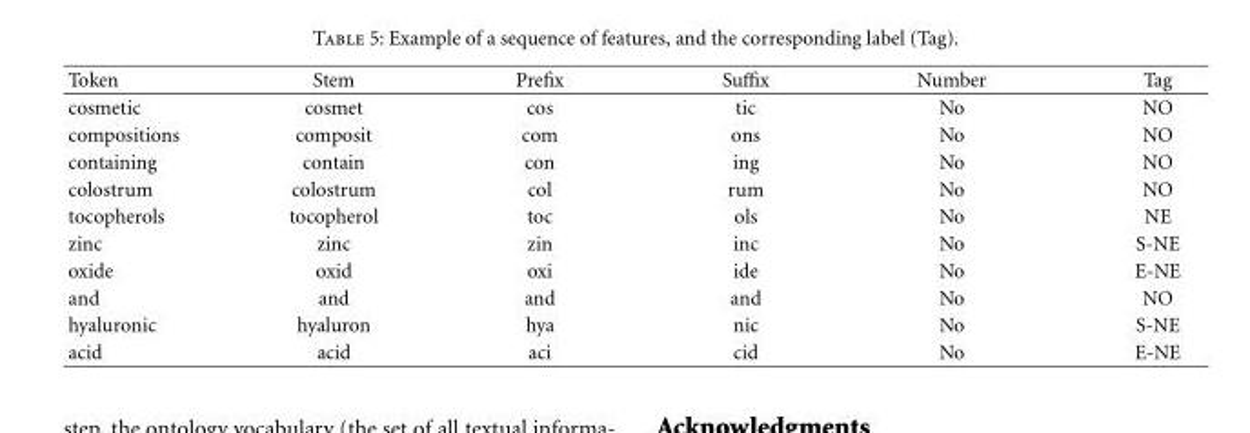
<table><thead><tr><td>Token</td><td>Stem</td><td>Prefix</td><td>Suffix</td><td>Number</td><td>Tag</td></tr></thead><tbody><tr><td>cosmetic</td><td>cosmet</td><td>cos</td><td>tic</td><td>No</td><td>NO</td></tr><tr><td>compositions</td><td>composit</td><td>com</td><td>ons</td><td>No</td><td>NO</td></tr><tr><td>containing</td><td>contain</td><td>con</td><td>ing</td><td>No</td><td>NO</td></tr><tr><td>colostrum</td><td>colostrum</td><td>col</td><td>rum</td><td>No</td><td>NO</td></tr><tr><td>tocopherols</td><td>tocopherol</td><td>toc</td><td>ols</td><td>No</td><td>NE</td></tr><tr><td>zinc</td><td>zinc</td><td>zin</td><td>inc</td><td>No</td><td>S-NE</td></tr><tr><td>oxide</td><td>oxid</td><td>oxi</td><td>ide</td><td>No</td><td>E-NE</td></tr><tr><td>and</td><td>and</td><td>and</td><td>and</td><td>No</td><td>NO</td></tr><tr><td>hyaluronic</td><td>hyaluron</td><td>hya</td><td>nic</td><td>No</td><td>S-NE</td></tr><tr><td>acid</td><td>acid</td><td>aci</td><td>cid</td><td>No</td><td>E-NE</td></tr></tbody></table>